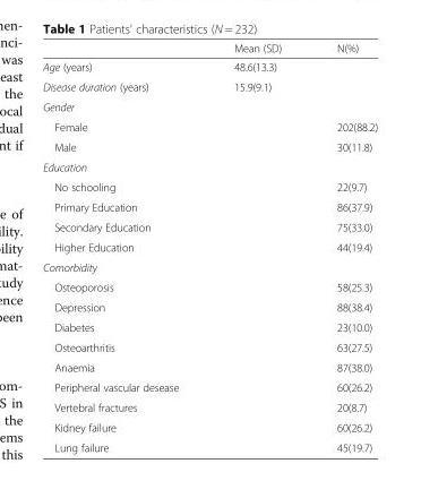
<table><thead><tr><td></td><td>Mean (SD)</td><td>N(%)</td></tr></thead><tbody><tr><td>Age (years)</td><td>48.6(13.3)</td><td></td></tr><tr><td>Disease duration (years)</td><td>15.9(9.1)</td><td></td></tr><tr><td colspan="3">Gender</td></tr><tr><td>Female</td><td></td><td>202(88.2)</td></tr><tr><td>Male</td><td></td><td>30(11.8)</td></tr><tr><td colspan="3">Education</td></tr><tr><td>No schooling</td><td></td><td>22(9.7)</td></tr><tr><td>Primary Education</td><td></td><td>86(37.9)</td></tr><tr><td>Secondary Education</td><td></td><td>75(33.0)</td></tr><tr><td>Higher Education</td><td></td><td>44(19.4)</td></tr><tr><td colspan="3">Comorbidity</td></tr><tr><td>Osteoporosis</td><td></td><td>58(25.3)</td></tr><tr><td>Depression</td><td></td><td>88(38.4)</td></tr><tr><td>Diabetes</td><td></td><td>23(10.0)</td></tr><tr><td>Osteoarthritis</td><td></td><td>63(27.5)</td></tr><tr><td>Anaemia</td><td></td><td>87(38.0)</td></tr><tr><td>Peripheral vascular desease</td><td></td><td>60(26.2)</td></tr><tr><td>Vertebral fractures</td><td></td><td>20(8.7)</td></tr><tr><td>Kidney failure</td><td></td><td>60(26.2)</td></tr><tr><td>Lung failure</td><td></td><td>45(19.7)</td></tr></tbody></table>